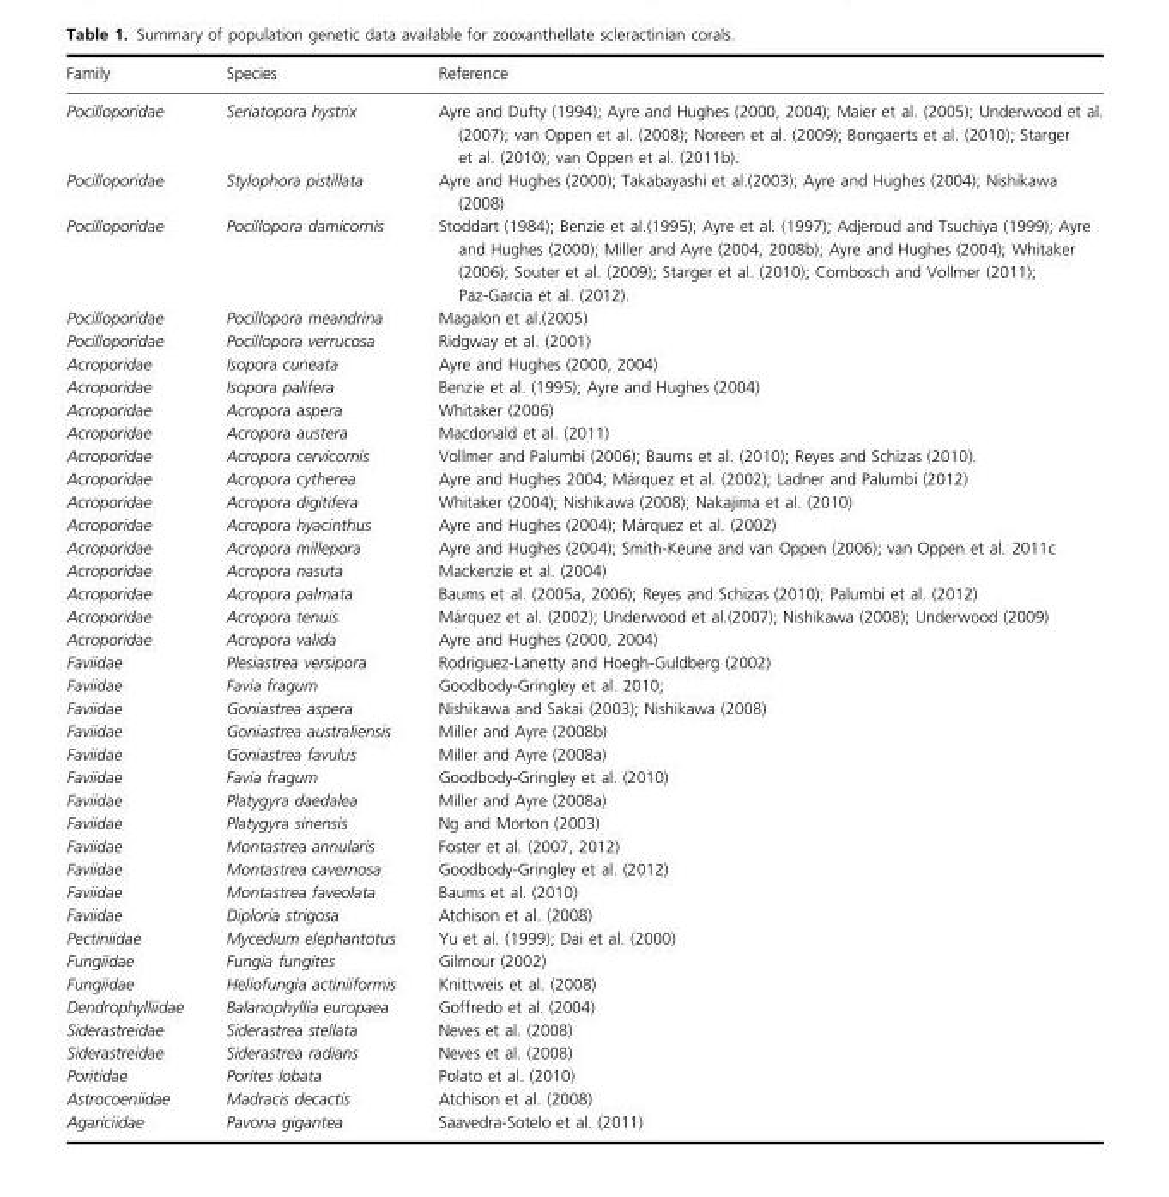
<table><thead><tr><td>Family</td><td>Species</td><td>Reference</td></tr></thead><tbody><tr><td>Pocilloporidae</td><td>Seriatopora hystrix</td><td>Ayre and Dufty (1994); Ayre and Hughes (2000, 2004); Maier et al. (2005); Underwood et al. (2007); van Oppen et al. (2008); Noreen et al. (2009); Bongaerts et al. (2010); Starger et al. (2010); van Oppen et al. (2011b).</td></tr><tr><td>Pocilloporidae</td><td>Stylophora pistillata</td><td>Ayre and Hughes (2000); Takabayashi et al.(2003); Ayre and Hughes (2004); Nishikawa (2008)</td></tr><tr><td>Pocilloporidae</td><td>Pocillopora damicornis</td><td>Stoddart (1984); Benzie et al.(1995); Ayre et al. (1997); Adjeroud and Tsuchiya (1999); Ayre and Hughes (2000); Miller and Ayre (2004, 2008b); Ayre and Hughes (2004); Whitaker (2006); Souter et al. (2009); Starger et al. (2010); Combosch and Vollmer (2011); Paz-Garcia et al. (2012).</td></tr><tr><td>Pocilloporidae</td><td>Pocillopora meandrina</td><td>Magalon et al.(2005)</td></tr><tr><td>Pocilloporidae</td><td>Pocillopora verrucosa</td><td>Ridgway et al. (2001)</td></tr><tr><td>Acroporidae</td><td>Isopora cuneata</td><td>Ayre and Hughes (2000, 2004)</td></tr><tr><td>Acroporidae</td><td>Isopora palifera</td><td>Benzie et al. (1995); Ayre and Hughes (2004)</td></tr><tr><td>Acroporidae</td><td>Acropora aspera</td><td>Whitaker (2006)</td></tr><tr><td>Acroporidae</td><td>Acropora austera</td><td>Macdonald et al. (2011)</td></tr><tr><td>Acroporidae</td><td>Acropora cervicornis</td><td>Vollmer and Palumbi (2006); Baums et al. (2010); Reyes and Schizas (2010).</td></tr><tr><td>Acroporidae</td><td>Acropora cytherea</td><td>Ayre and Hughes 2004; Ma´rquez et al. (2002); Ladner and Palumbi (2012)</td></tr><tr><td>Acroporidae</td><td>Acropora digitifera</td><td>Whitaker (2004); Nishikawa (2008); Nakajima et al. (2010)</td></tr><tr><td>Acroporidae</td><td>Acropora hyacinthus</td><td>Ayre and Hughes (2004); Ma´rquez et al. (2002)</td></tr><tr><td>Acroporidae</td><td>Acropora millepora</td><td>Ayre and Hughes (2004); Smith-Keune and van Oppen (2006); van Oppen et al. 2011c</td></tr><tr><td>Acroporidae</td><td>Acropora nasuta</td><td>Mackenzie et al. (2004)</td></tr><tr><td>Acroporidae</td><td>Acropora palmata</td><td>Baums et al. (2005a, 2006); Reyes and Schizas (2010); Palumbi et al. (2012)</td></tr><tr><td>Acroporidae</td><td>Acropora tenuis</td><td>Ma´rquez et al. (2002); Underwood et al.(2007); Nishikawa (2008); Underwood (2009)</td></tr><tr><td>Acroporidae</td><td>Acropora valida</td><td>Ayre and Hughes (2000, 2004)</td></tr><tr><td>Faviidae</td><td>Plesiastrea versipora</td><td>Rodriguez-Lanetty and Hoegh-Guldberg (2002)</td></tr><tr><td>Faviidae</td><td>Favia fragum</td><td>Goodbody-Gringley et al. 2010;</td></tr><tr><td>Faviidae</td><td>Goniastrea aspera</td><td>Nishikawa and Sakai (2003); Nishikawa (2008)</td></tr><tr><td>Faviidae</td><td>Goniastrea australiensis</td><td>Miller and Ayre (2008b)</td></tr><tr><td>Faviidae</td><td>Goniastrea favulus</td><td>Miller and Ayre (2008a)</td></tr><tr><td>Faviidae</td><td>Favia fragum</td><td>Goodbody-Gringley et al. (2010)</td></tr><tr><td>Faviidae</td><td>Platygyra daedalea</td><td>Miller and Ayre (2008a)</td></tr><tr><td>Faviidae</td><td>Platygyra sinensis</td><td>Ng and Morton (2003)</td></tr><tr><td>Faviidae</td><td>Montastrea annularis</td><td>Foster et al. (2007, 2012)</td></tr><tr><td>Faviidae</td><td>Montastrea cavernosa</td><td>Goodbody-Gringley et al. (2012)</td></tr><tr><td>Faviidae</td><td>Montastrea faveolata</td><td>Baums et al. (2010)</td></tr><tr><td>Faviidae</td><td>Diploria strigosa</td><td>Atchison et al. (2008)</td></tr><tr><td>Pectiniidae</td><td>Mycedium elephantotus</td><td>Yu et al. (1999); Dai et al. (2000)</td></tr><tr><td>Fungiidae</td><td>Fungia fungites</td><td>Gilmour (2002)</td></tr><tr><td>Fungiidae</td><td>Heliofungia actiniiformis</td><td>Knittweis et al. (2008)</td></tr><tr><td>Dendrophylliidae</td><td>Balanophyllia europaea</td><td>Goffredo et al. (2004)</td></tr><tr><td>Siderastreidae</td><td>Siderastrea stellata</td><td>Neves et al. (2008)</td></tr><tr><td>Siderastreidae</td><td>Siderastrea radians</td><td>Neves et al. (2008)</td></tr><tr><td>Poritidae</td><td>Porites lobata</td><td>Polato et al. (2010)</td></tr><tr><td>Astrocoeniidae</td><td>Madracis decactis</td><td>Atchison et al. (2008)</td></tr><tr><td>Agariciidae</td><td>Pavona gigantea</td><td>Saavedra-Sotelo et al. (2011)</td></tr></tbody></table>